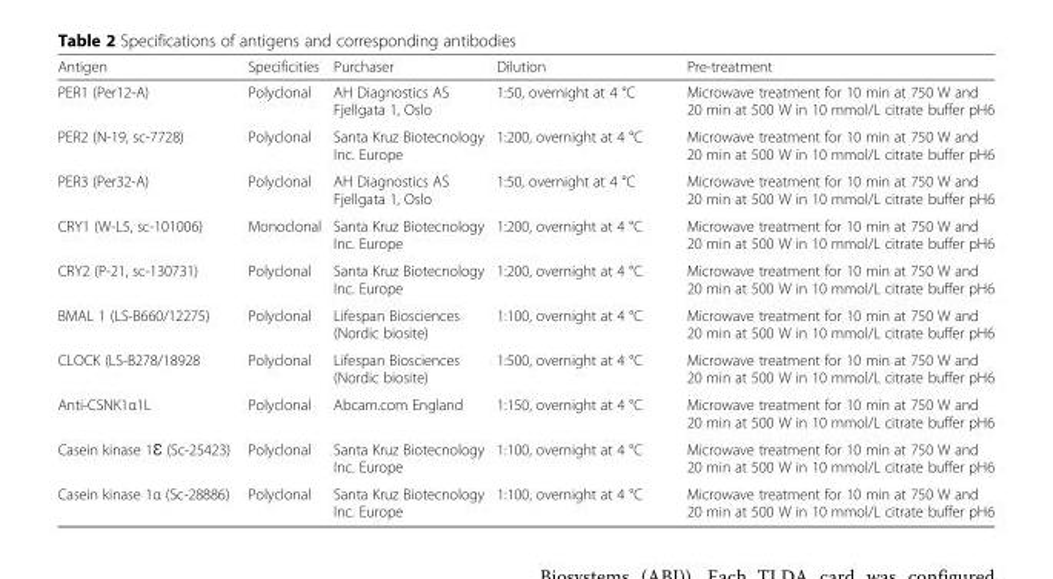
<table><thead><tr><td>Antigen</td><td>Specificities</td><td>Purchaser</td><td>Dilution</td><td>Pre-treatment</td></tr></thead><tbody><tr><td>PER1 (Per12-A)</td><td>Polyclonal</td><td>AH Diagnostics AS Fjellgata 1, Oslo</td><td>1:50, overnight at 4 °C</td><td>Microwave treatment for 10 min at 750 W and 20 min at 500 W in 10 mmol/L citrate buffer pH6</td></tr><tr><td>PER2 (N-19, sc-7728)</td><td>Polyclonal</td><td>Santa Kruz Biotecnology Inc. Europe</td><td>1:200, overnight at 4 °C</td><td>Microwave treatment for 10 min at 750 W and 20 min at 500 W in 10 mmol/L citrate buffer pH6</td></tr><tr><td>PER3 (Per32-A)</td><td>Polyclonal</td><td>AH Diagnostics AS Fjellgata 1, Oslo</td><td>1:50, overnight at 4 °C</td><td>Microwave treatment for 10 min at 750 W and 20 min at 500 W in 10 mmol/L citrate buffer pH6</td></tr><tr><td>CRY1 (W-L5, sc-101006)</td><td>Monoclonal</td><td>Santa Kruz Biotecnology Inc. Europe</td><td>1:200, overnight at 4 °C</td><td>Microwave treatment for 10 min at 750 W and 20 min at 500 W in 10 mmol/L citrate buffer pH6</td></tr><tr><td>CRY2 (P-21, sc-130731)</td><td>Polyclonal</td><td>Santa Kruz Biotecnology Inc. Europe</td><td>1:200, overnight at 4 °C</td><td>Microwave treatment for 10 min at 750 W and 20 min at 500 W in 10 mmol/L citrate buffer pH6</td></tr><tr><td>BMAL 1 (LS-B660/12275)</td><td>Polyclonal</td><td>Lifespan Biosciences (Nordic biosite)</td><td>1:100, overnight at 4 °C</td><td>Microwave treatment for 10 min at 750 W and 20 min at 500 W in 10 mmol/L citrate buffer pH6</td></tr><tr><td>CLOCK (LS-B278/18928</td><td>Polyclonal</td><td>Lifespan Biosciences (Nordic biosite)</td><td>1:500, overnight at 4 °C</td><td>Microwave treatment for 10 min at 750 W and 20 min at 500 W in 10 mmol/L citrate buffer pH6</td></tr><tr><td>Anti-CSNK1α1L</td><td>Polyclonal</td><td>Abcam.com England</td><td>1:150, overnight at 4 °C</td><td>Microwave treatment for 10 min at 750 W and 20 min at 500 W in 10 mmol/L citrate buffer pH6</td></tr><tr><td>Casein kinase 1Ɛ (Sc-25423)</td><td>Polyclonal</td><td>Santa Kruz Biotecnology Inc. Europe</td><td>1:100, overnight at 4 °C</td><td>Microwave treatment for 10 min at 750 W and 20 min at 500 W in 10 mmol/L citrate buffer pH6</td></tr><tr><td>Casein kinase 1α (Sc-28886)</td><td>Polyclonal</td><td>Santa Kruz Biotecnology Inc. Europe</td><td>1:100, overnight at 4 °C</td><td>Microwave treatment for 10 min at 750 W and 20 min at 500 W in 10 mmol/L citrate buffer pH6</td></tr></tbody></table>